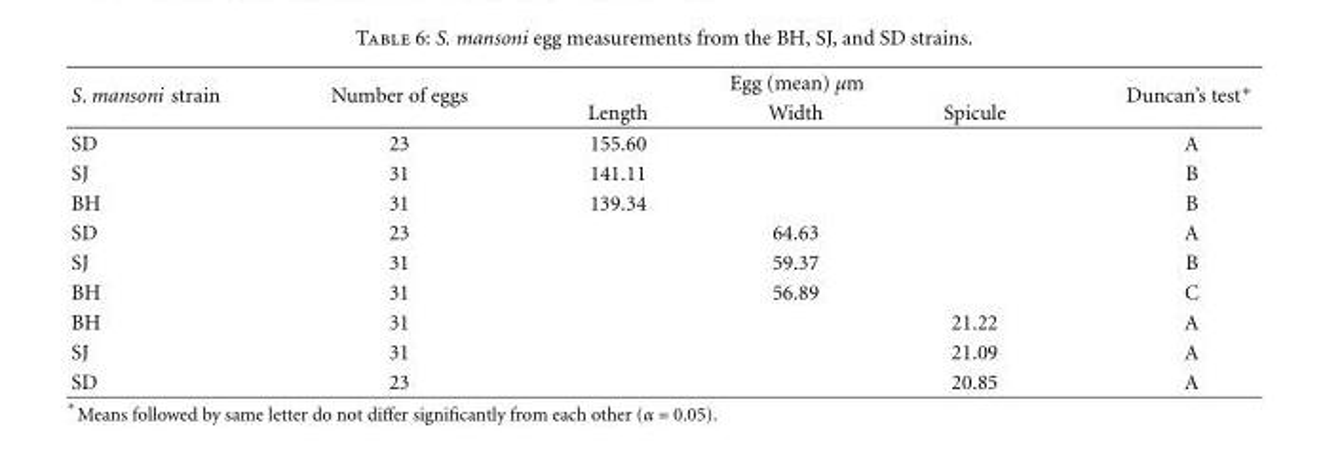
<table><thead><tr><td rowspan="2">S. mansoni strain</td><td rowspan="2">Number of eggs</td><td colspan="3">Egg (mean) μm</td><td rowspan="2">Duncan’s test∗</td></tr><tr><td>Length</td><td>Width</td><td>Spicule</td></tr></thead><tbody><tr><td>SD</td><td>23</td><td>155.60</td><td></td><td></td><td>A</td></tr><tr><td>SJ</td><td>31</td><td>141.11</td><td></td><td></td><td>B</td></tr><tr><td>BH</td><td>31</td><td>139.34</td><td></td><td></td><td>B</td></tr><tr><td>SD</td><td>23</td><td></td><td>64.63</td><td></td><td>A</td></tr><tr><td>SJ</td><td>31</td><td></td><td>59.37</td><td></td><td>B</td></tr><tr><td>BH</td><td>31</td><td></td><td>56.89</td><td></td><td>C</td></tr><tr><td>BH</td><td>31</td><td></td><td></td><td>21.22</td><td>A</td></tr><tr><td>SJ</td><td>31</td><td></td><td></td><td>21.09</td><td>A</td></tr><tr><td>SD</td><td>23</td><td></td><td></td><td>20.85</td><td>A</td></tr></tbody></table>